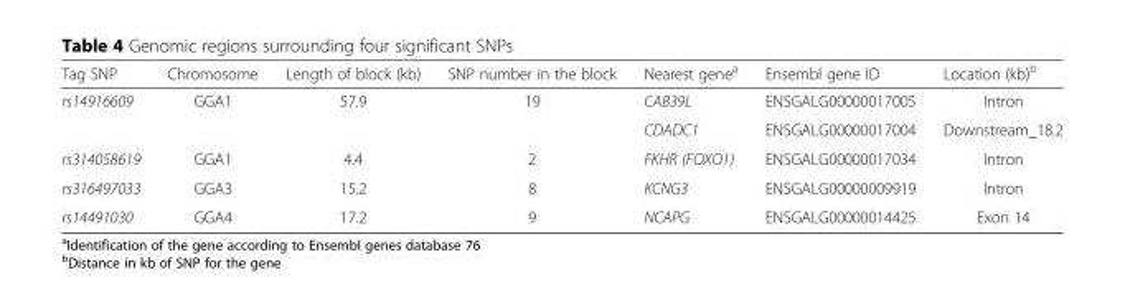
<table><thead><tr><td>Tag SNP</td><td>Chromosome</td><td>Length of block (kb)</td><td>SNP number in the block</td><td>Nearest gene<sup>a</sup></td><td>Ensembl gene ID</td><td>Location (kb)<sup>b</sup></td></tr></thead><tbody><tr><td rowspan="2">rs14916609</td><td rowspan="2">GGA1</td><td rowspan="2">57.9</td><td rowspan="2">19</td><td>CAB39L</td><td>ENSGALG00000017005</td><td>Intron</td></tr><tr><td>CDADC1</td><td>ENSGALG00000017004</td><td>Downstream_18.2</td></tr><tr><td>rs314058619</td><td>GGA1</td><td>4.4</td><td>2</td><td>FKHR (FOXO1)</td><td>ENSGALG00000017034</td><td>Intron</td></tr><tr><td>rs316497033</td><td>GGA3</td><td>15.2</td><td>8</td><td>KCNG3</td><td>ENSGALG00000009919</td><td>Intron</td></tr><tr><td>rs14491030</td><td>GGA4</td><td>17.2</td><td>9</td><td>NCAPG</td><td>ENSGALG00000014425</td><td>Exon 14</td></tr></tbody></table>